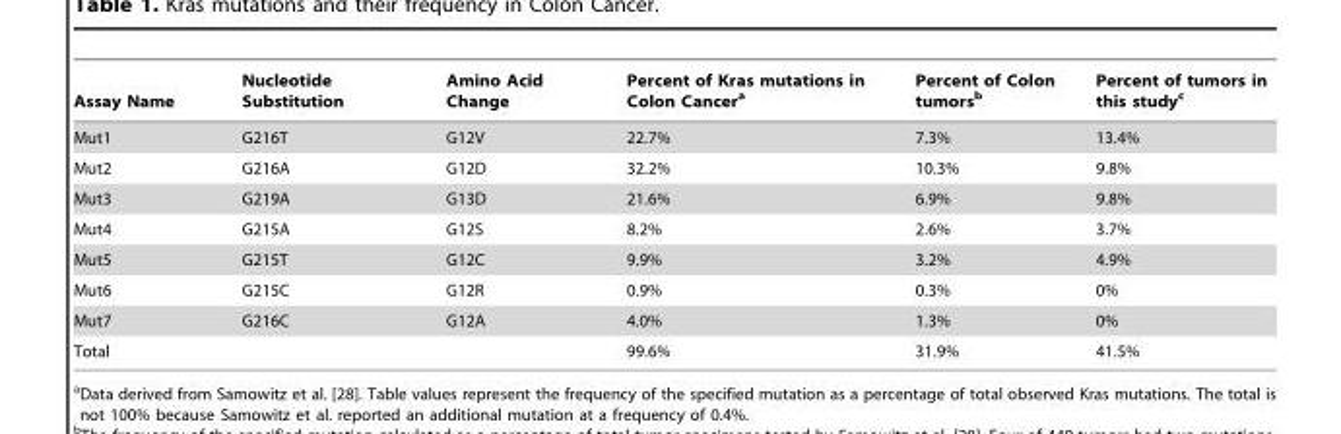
<table><thead><tr><td>Assay Name</td><td>Nucleotide Substitution</td><td>Amino Acid Change</td><td>Percent of Kras mutations in Colon Cancer<sup>a</sup></td><td>Percent of Colon tumors<sup>b</sup></td><td>Percent of tumors in this study<sup>c</sup></td></tr></thead><tbody><tr><td>Mut1</td><td>G216T</td><td>G12V</td><td>22.7%</td><td>7.3%</td><td>13.4%</td></tr><tr><td>Mut2</td><td>G216A</td><td>G12D</td><td>32.2%</td><td>10.3%</td><td>9.8%</td></tr><tr><td>Mut3</td><td>G219A</td><td>G13D</td><td>21.6%</td><td>6.9%</td><td>9.8%</td></tr><tr><td>Mut4</td><td>G215A</td><td>G12S</td><td>8.2%</td><td>2.6%</td><td>3.7%</td></tr><tr><td>Mut5</td><td>G215T</td><td>G12C</td><td>9.9%</td><td>3.2%</td><td>4.9%</td></tr><tr><td>Mut6</td><td>G215C</td><td>G12R</td><td>0.9%</td><td>0.3%</td><td>0%</td></tr><tr><td>Mut7</td><td>G216C</td><td>G12A</td><td>4.0%</td><td>1.3%</td><td>0%</td></tr><tr><td>Total</td><td></td><td></td><td>99.6%</td><td>31.9%</td><td>41.5%</td></tr></tbody></table>